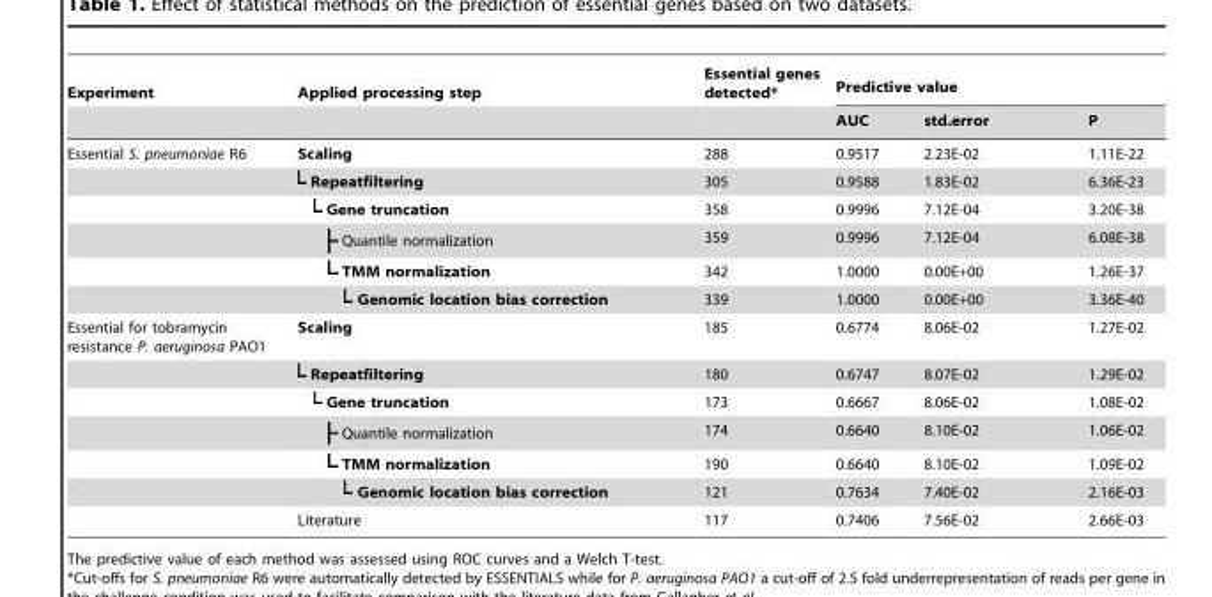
<table><thead><tr><td rowspan="2">Experiment</td><td rowspan="2">Applied processing step</td><td rowspan="2">Essential genes detected*</td><td colspan="3">Predictive value</td></tr><tr><td>AUC</td><td>std.error</td><td>P</td></tr></thead><tbody><tr><td rowspan="6">Essential S. pneumoniae R6</td><td>Scaling</td><td>288</td><td>0.9517</td><td>2.23E-02</td><td>1.11E-22</td></tr><tr><td>Repeatfiltering</td><td>305</td><td>0.9588</td><td>1.83E-02</td><td>6.36E-23</td></tr><tr><td>Gene truncation</td><td>358</td><td>0.9996</td><td>7.12E-04</td><td>3.20E-38</td></tr><tr><td>Quantile normalization</td><td>359</td><td>0.9996</td><td>7.12E-04</td><td>6.08E-38</td></tr><tr><td>TMM normalization</td><td>342</td><td>1.0000</td><td>0.00E+00</td><td>1.26E-37</td></tr><tr><td>Genomic location bias correction</td><td>339</td><td>1.0000</td><td>0.00E+00</td><td>3.36E-40</td></tr><tr><td rowspan="7">Essential for tobramycin resistance P. aeruginosa PAO1</td><td>Scaling</td><td>185</td><td>0.6774</td><td>8.06E-02</td><td>1.27E-02</td></tr><tr><td>Repeatfiltering</td><td>180</td><td>0.6747</td><td>8.07E-02</td><td>1.29E-02</td></tr><tr><td>Gene truncation</td><td>173</td><td>0.6667</td><td>8.06E-02</td><td>1.08E-02</td></tr><tr><td>Quantile normalization</td><td>174</td><td>0.6640</td><td>8.10E-02</td><td>1.06E-02</td></tr><tr><td>TMM normalization</td><td>190</td><td>0.6640</td><td>8.10E-02</td><td>1.09E-02</td></tr><tr><td>Genomic location bias correction</td><td>121</td><td>0.7634</td><td>7.40E-02</td><td>2.16E-03</td></tr><tr><td>Literature</td><td>117</td><td>0.7406</td><td>7.56E-02</td><td>2.66E-03</td></tr></tbody></table>